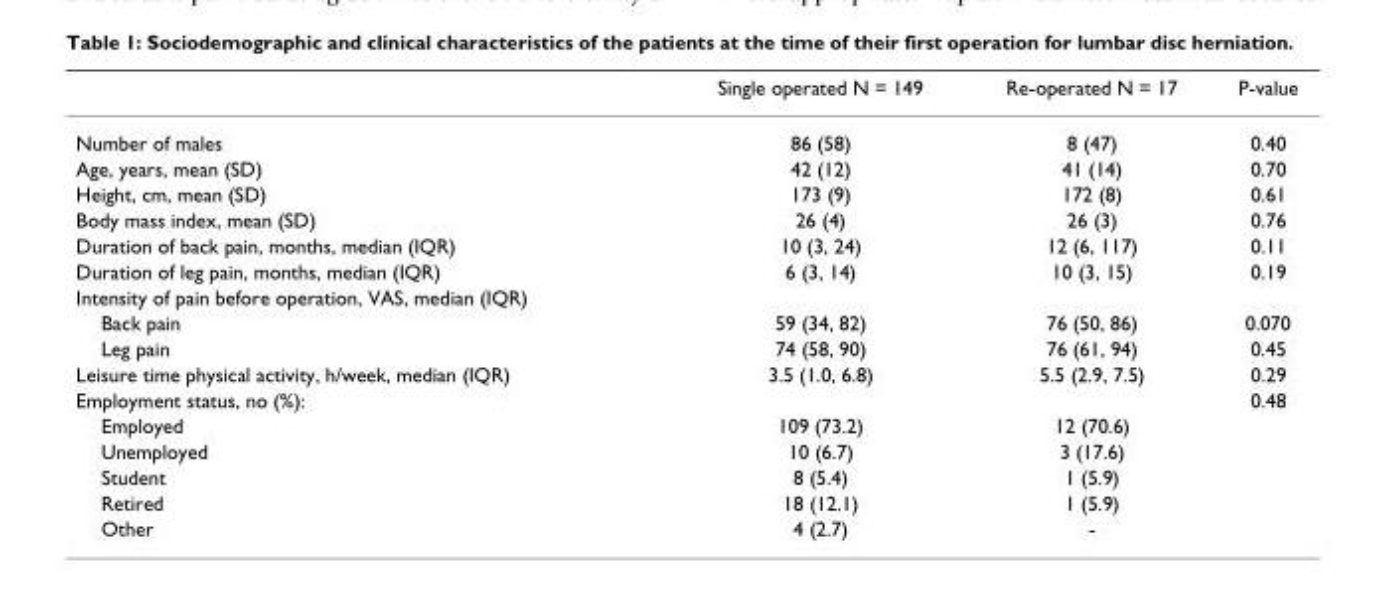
<table><thead><tr><td></td><td>Single operated N = 149</td><td>Re-operated N = 17</td><td>P-value</td></tr></thead><tbody><tr><td>Number of males</td><td>86 (58)</td><td>8 (47)</td><td>0.40</td></tr><tr><td>Age, years, mean (SD)</td><td>42 (12)</td><td>41 (14)</td><td>0.70</td></tr><tr><td>Height, cm, mean (SD)</td><td>173 (9)</td><td>172 (8)</td><td>0.61</td></tr><tr><td>Body mass index, mean (SD)</td><td>26 (4)</td><td>26 (3)</td><td>0.76</td></tr><tr><td>Duration of back pain, months, median (IQR)</td><td>10 (3, 24)</td><td>12 (6, 117)</td><td>0.11</td></tr><tr><td>Duration of leg pain, months, median (IQR)</td><td>6 (3, 14)</td><td>10 (3, 15)</td><td>0.19</td></tr><tr><td colspan="4">Intensity of pain before operation, VAS, median (IQR)</td></tr><tr><td>Back pain</td><td>59 (34, 82)</td><td>76 (50, 86)</td><td>0.070</td></tr><tr><td>Leg pain</td><td>74 (58, 90)</td><td>76 (61, 94)</td><td>0.45</td></tr><tr><td>Leisure time physical activity, h/week, median (IQR)</td><td>3.5 (1.0, 6.8)</td><td>5.5 (2.9, 7.5)</td><td>0.29</td></tr><tr><td>Employment status, no (%):</td><td></td><td></td><td>0.48</td></tr><tr><td>Employed</td><td>109 (73.2)</td><td>12 (70.6)</td><td></td></tr><tr><td>Unemployed</td><td>10 (6.7)</td><td>3 (17.6)</td><td></td></tr><tr><td>Student</td><td>8 (5.4)</td><td>1 (5.9)</td><td></td></tr><tr><td>Retired</td><td>18 (12.1)</td><td>1 (5.9)</td><td></td></tr><tr><td>Other</td><td>4 (2.7)</td><td>-</td><td></td></tr></tbody></table>